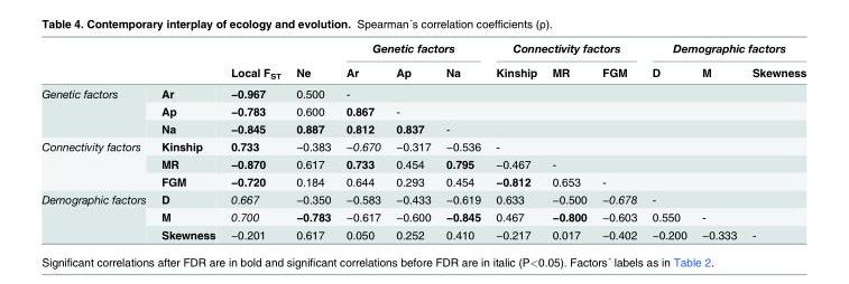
<table><thead><tr><td rowspan="2"></td><td rowspan="2"></td><td rowspan="2">Local F<sub>ST</sub></td><td rowspan="2">Ne</td><td colspan="3">Genetic factors</td><td colspan="3">Connectivity factors</td><td colspan="3">Demographic factors</td></tr><tr><td>Ar</td><td>Ap</td><td>Na</td><td>Kinship</td><td>MR</td><td>FGM</td><td>D</td><td>M</td><td>Skewness</td></tr></thead><tbody><tr><td rowspan="3">Genetic factors</td><td>Ar</td><td>−0.967</td><td>0.500</td><td>-</td><td></td><td></td><td></td><td></td><td></td><td></td><td></td><td></td></tr><tr><td>Ap</td><td>−0.783</td><td>0.600</td><td>0.867</td><td>-</td><td></td><td></td><td></td><td></td><td></td><td></td><td></td></tr><tr><td>Na</td><td>−0.845</td><td>0.887</td><td>0.812</td><td>0.837</td><td>-</td><td></td><td></td><td></td><td></td><td></td><td></td></tr><tr><td rowspan="3">Connectivity factors</td><td>Kinship</td><td>0.733</td><td>−0.383</td><td>−0.670</td><td>−0.317</td><td>−0.536</td><td>-</td><td></td><td></td><td></td><td></td><td></td></tr><tr><td>MR</td><td>−0.870</td><td>0.617</td><td>0.733</td><td>0.454</td><td>0.795</td><td>−0.467</td><td>-</td><td></td><td></td><td></td><td></td></tr><tr><td>FGM</td><td>−0.720</td><td>0.184</td><td>0.644</td><td>0.293</td><td>0.454</td><td>−0.812</td><td>0.653</td><td>-</td><td></td><td></td><td></td></tr><tr><td rowspan="3">Demographic factors</td><td>D</td><td>0.667</td><td>−0.350</td><td>−0.583</td><td>−0.433</td><td>−0.619</td><td>0.633</td><td>−0.500</td><td>−0.678</td><td>-</td><td></td><td></td></tr><tr><td>M</td><td>0.700</td><td>−0.783</td><td>−0.617</td><td>−0.600</td><td>−0.845</td><td>0.467</td><td>−0.800</td><td>−0.603</td><td>0.550</td><td>-</td><td></td></tr><tr><td>Skewness</td><td>−0.201</td><td>0.617</td><td>0.050</td><td>0.252</td><td>0.410</td><td>−0.217</td><td>0.017</td><td>−0.402</td><td>−0.200</td><td>−0.333</td><td>-</td></tr></tbody></table>